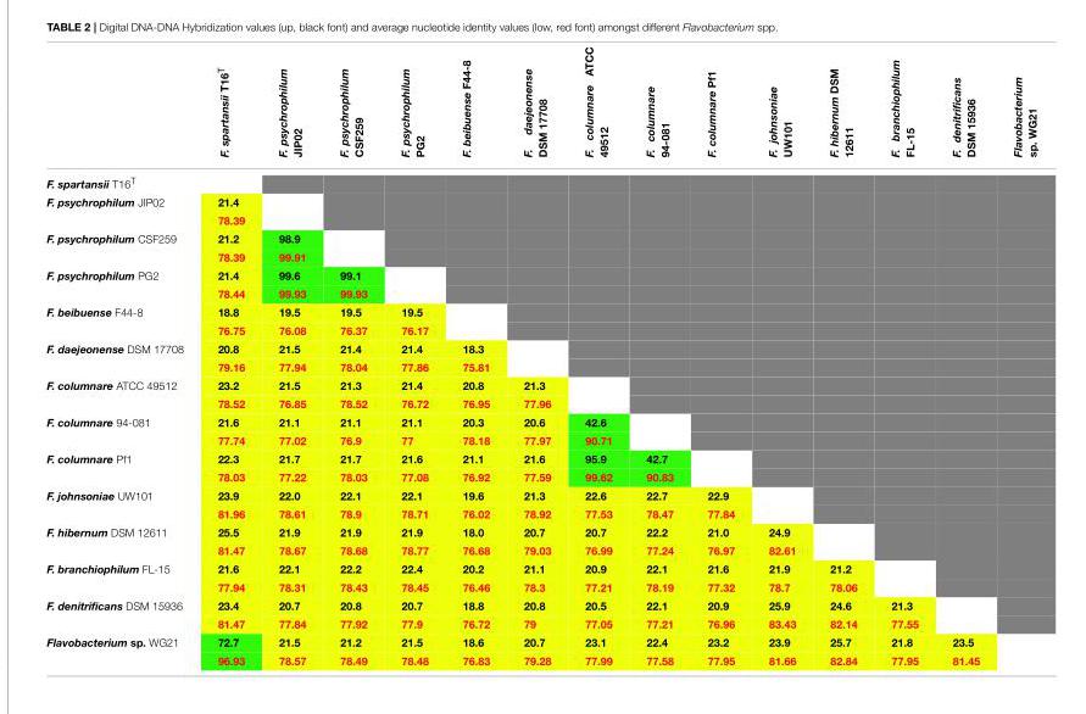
<table><thead><tr><td></td><td>F. spartansii T16<sup>T</sup></td><td>F. psychrophilum JIP02</td><td>F. psychrophilum CSF259</td><td>F. psychrophilum PG2</td><td>F. beibuense F44-8</td><td>F. daejeonense DSM 17708</td><td>F. columnare ATCC 49512</td><td>F. columnare 94-081</td><td>F. columnare Pf1</td><td>F. johnsoniae UW101</td><td>F. hibernum DSM 12611</td><td>F. branchiophilum FL-15</td><td>F. denitrificans DSM 15936</td><td>Flavobacterium sp. WG21</td></tr></thead><tbody><tr><td colspan="15">F. spartansii T16<sup>T</sup></td></tr><tr><td rowspan="2">F. psychrophilum JIP02</td><td>21.4</td><td></td><td></td><td></td><td></td><td></td><td></td><td></td><td></td><td></td><td></td><td></td><td></td><td></td></tr><tr><td>78.39</td><td></td><td></td><td></td><td></td><td></td><td></td><td></td><td></td><td></td><td></td><td></td><td></td><td></td></tr><tr><td rowspan="2">F. psychrophilum CSF259</td><td>21.2</td><td>98.9</td><td></td><td></td><td></td><td></td><td></td><td></td><td></td><td></td><td></td><td></td><td></td><td></td></tr><tr><td>78.39</td><td>99.91</td><td></td><td></td><td></td><td></td><td></td><td></td><td></td><td></td><td></td><td></td><td></td><td></td></tr><tr><td rowspan="2">F. psychrophilum PG2</td><td>21.4</td><td>99.6</td><td>99.1</td><td></td><td></td><td></td><td></td><td></td><td></td><td></td><td></td><td></td><td></td><td></td></tr><tr><td>78.44</td><td>99.93</td><td>99.93</td><td></td><td></td><td></td><td></td><td></td><td></td><td></td><td></td><td></td><td></td><td></td></tr><tr><td rowspan="2">F. beibuense F44-8</td><td>18.8</td><td>19.5</td><td>19.5</td><td>19.5</td><td></td><td></td><td></td><td></td><td></td><td></td><td></td><td></td><td></td><td></td></tr><tr><td>76.75</td><td>76.08</td><td>76.37</td><td>76.17</td><td></td><td></td><td></td><td></td><td></td><td></td><td></td><td></td><td></td><td></td></tr><tr><td rowspan="2">F. daejeonense DSM 17708</td><td>20.8</td><td>21.5</td><td>21.4</td><td>21.4</td><td>18.3</td><td></td><td></td><td></td><td></td><td></td><td></td><td></td><td></td><td></td></tr><tr><td>79.16</td><td>77.94</td><td>78.04</td><td>77.86</td><td>75.81</td><td></td><td></td><td></td><td></td><td></td><td></td><td></td><td></td><td></td></tr><tr><td rowspan="2">F. columnare ATCC 49512</td><td>23.2</td><td>21.5</td><td>21.3</td><td>21.4</td><td>20.8</td><td>21.3</td><td></td><td></td><td></td><td></td><td></td><td></td><td></td><td></td></tr><tr><td>78.52</td><td>76.85</td><td>78.52</td><td>76.72</td><td>76.95</td><td>77.96</td><td></td><td></td><td></td><td></td><td></td><td></td><td></td><td></td></tr><tr><td rowspan="2">F. columnare 94-081</td><td>21.6</td><td>21.1</td><td>21.1</td><td>21.1</td><td>20.3</td><td>20.6</td><td>42.6</td><td></td><td></td><td></td><td></td><td></td><td></td><td></td></tr><tr><td>77.74</td><td>77.02</td><td>76.9</td><td>77</td><td>78.18</td><td>77.97</td><td>90.71</td><td></td><td></td><td></td><td></td><td></td><td></td><td></td></tr><tr><td rowspan="2">F. columnare Pf1</td><td>22.3</td><td>21.7</td><td>21.7</td><td>21.6</td><td>21.1</td><td>21.6</td><td>95.9</td><td>42.7</td><td></td><td></td><td></td><td></td><td></td><td></td></tr><tr><td>78.03</td><td>77.22</td><td>78.03</td><td>77.08</td><td>76.92</td><td>77.59</td><td>99.62</td><td>90.83</td><td></td><td></td><td></td><td></td><td></td><td></td></tr><tr><td rowspan="2">F. johnsoniae UW101</td><td>23.9</td><td>22.0</td><td>22.1</td><td>22.1</td><td>19.6</td><td>21.3</td><td>22.6</td><td>22.7</td><td>22.9</td><td></td><td></td><td></td><td></td><td></td></tr><tr><td>81.96</td><td>78.61</td><td>78.9</td><td>78.71</td><td>76.02</td><td>78.92</td><td>77.53</td><td>78.47</td><td>77.84</td><td></td><td></td><td></td><td></td><td></td></tr><tr><td rowspan="2">F. hibernum DSM 12611</td><td>25.5</td><td>21.9</td><td>21.9</td><td>21.9</td><td>18.0</td><td>20.7</td><td>20.7</td><td>22.2</td><td>21.0</td><td>24.9</td><td></td><td></td><td></td><td></td></tr><tr><td>81.47</td><td>78.67</td><td>78.68</td><td>78.77</td><td>76.68</td><td>79.03</td><td>76.99</td><td>77.24</td><td>76.97</td><td>82.61</td><td></td><td></td><td></td><td></td></tr><tr><td rowspan="2">F. branchiophilum FL-15</td><td>21.6</td><td>22.1</td><td>22.2</td><td>22.4</td><td>20.2</td><td>21.1</td><td>20.9</td><td>22.1</td><td>21.6</td><td>21.9</td><td>21.2</td><td></td><td></td><td></td></tr><tr><td>77.94</td><td>78.31</td><td>78.43</td><td>78.45</td><td>76.46</td><td>78.3</td><td>77.21</td><td>78.19</td><td>77.32</td><td>78.7</td><td>78.06</td><td></td><td></td><td></td></tr><tr><td rowspan="2">F. denitrificans DSM 15936</td><td>23.4</td><td>20.7</td><td>20.8</td><td>20.7</td><td>18.8</td><td>20.8</td><td>20.5</td><td>22.1</td><td>20.9</td><td>25.9</td><td>24.6</td><td>21.3</td><td></td><td></td></tr><tr><td>81.47</td><td>77.84</td><td>77.92</td><td>77.9</td><td>76.72</td><td>79</td><td>77.05</td><td>77.21</td><td>76.96</td><td>83.43</td><td>82.14</td><td>77.55</td><td></td><td></td></tr><tr><td rowspan="2">Flavobacterium sp. WG21</td><td>72.7</td><td>21.5</td><td>21.2</td><td>21.5</td><td>18.6</td><td>20.7</td><td>23.1</td><td>22.4</td><td>23.2</td><td>23.9</td><td>25.7</td><td>21.8</td><td>23.5</td><td></td></tr><tr><td>96.93</td><td>78.57</td><td>78.49</td><td>78.48</td><td>76.83</td><td>79.28</td><td>77.99</td><td>77.58</td><td>77.95</td><td>81.66</td><td>82.84</td><td>77.95</td><td>81.45</td><td></td></tr></tbody></table>